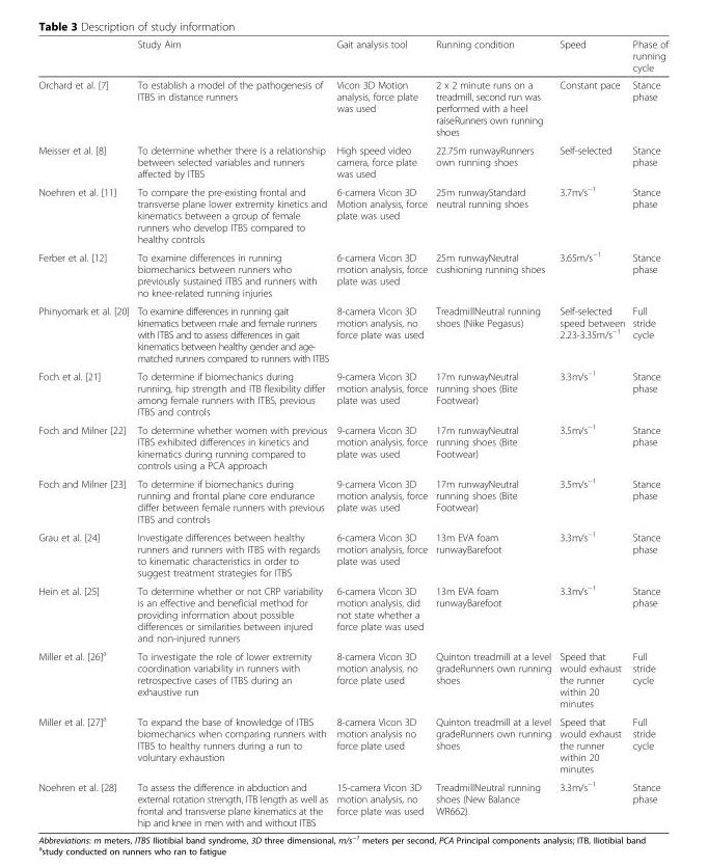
<table><thead><tr><td></td><td>Study Aim</td><td>Gait analysis tool</td><td>Running condition</td><td>Speed</td><td>Phase of running cycle</td></tr></thead><tbody><tr><td>Orchard et al. [7]</td><td>To establish a model of the pathogenesis of ITBS in distance runners</td><td>Vicon 3D Motion analysis, force plate was used</td><td>2 x 2 minute runs on a treadmill, second run was performed with a heel raiseRunners own running shoes</td><td>Constant pace</td><td>Stance phase</td></tr><tr><td>Meisser et al. [8]</td><td>To determine whether there is a relationship between selected variables and runners affected by ITBS</td><td>High speed video camera, force plate was used</td><td>22.75m runwayRunners own running shoes</td><td>Self-selected</td><td>Stance phase</td></tr><tr><td>Noehren et al. [11]</td><td>To compare the pre-existing frontal and transverse plane lower extremity kinetics and kinematics between a group of female runners who develop ITBS compared to healthy controls</td><td>6-camera Vicon 3D Motion analysis, force plate was used</td><td>25m runwayStandard neutral running shoes</td><td>3.7m/s<sup>−1</sup></td><td>Stance phase</td></tr><tr><td>Ferber et al. [12]</td><td>To examine differences in running biomechanics between runners who previously sustained ITBS and runners with no knee-related running injuries</td><td>6-camera Vicon 3D motion analysis, force plate was used</td><td>25m runwayNeutral cushioning running shoes</td><td>3.65m/s<sup>−1</sup></td><td>Stance phase</td></tr><tr><td>Phinyomark et al. [20]</td><td>To examine differences in running gait kinematics between male and female runners with ITBS and to assess differences in gait kinematics between healthy gender and age- matched runners compared to runners with ITBS</td><td>8-camera Vicon 3D motion analysis, no force plate was used</td><td>TreadmillNeutral running shoes (Nike Pegasus)</td><td>Self-selected speed between 2.23-3.35m/s<sup>−1</sup></td><td>Full stride cycle</td></tr><tr><td>Foch et al. [21]</td><td>To determine if biomechanics during running, hip strength and ITB flexibility differ among female runners with ITBS, previous ITBS and controls</td><td>9-camera Vicon 3D motion analysis, force plate was used</td><td>17m runwayNeutral running shoes (Bite Footwear)</td><td>3.3m/s<sup>−1</sup></td><td>Stance phase</td></tr><tr><td>Foch and Milner [22]</td><td>To determine whether women with previous ITBS exhibited differences in kinetics and kinematics during running compared to controls using a PCA approach</td><td>9-camera Vicon 3D motion analysis, force plate was used</td><td>17m runwayNeutral running shoes (Bite Footwear)</td><td>3.5m/s<sup>−1</sup></td><td>Stance phase</td></tr><tr><td>Foch and Milner [23]</td><td>To determine if biomechanics during running and frontal plane core endurance differ between female runners with previous ITBS and controls</td><td>9-camera Vicon 3D motion analysis, force plate was used</td><td>17m runwayNeutral running shoes (Bite Footwear)</td><td>3.5m/s<sup>−1</sup></td><td>Stance phase</td></tr><tr><td>Grau et al. [24]</td><td>Investigate differences between healthy runners and runners with ITBS with regards to kinematic characteristics in order to suggest treatment strategies for ITBS</td><td>6-camera Vicon 3D motion analysis, force plate was used</td><td>13m EVA foam runwayBarefoot</td><td>3.3m/s<sup>−1</sup></td><td>Stance phase</td></tr><tr><td>Hein et al. [25]</td><td>To determine whether or not CRP variability is an effective and beneficial method for providing information about possible differences or similarities between injured and non-injured runners</td><td>6-camera Vicon 3D motion analysis, did not state whether a force plate was used</td><td>13m EVA foam runwayBarefoot</td><td>3.3m/s<sup>−1</sup></td><td>Stance phase</td></tr><tr><td>Miller et al. [26]<sup>a</sup></td><td>To investigate the role of lower extremity coordination variability in runners with retrospective cases of ITBS during an exhaustive run</td><td>8-camera Vicon 3D motion analysis, no force plate used</td><td>Quinton treadmill at a level gradeRunners own running shoes</td><td>Speed that would exhaust the runner within 20 minutes</td><td>Full stride cycle</td></tr><tr><td>Miller et al. [27]<sup>a</sup></td><td>To expand the base of knowledge of ITBS biomechanics when comparing runners with ITBS to healthy runners during a run to voluntary exhaustion</td><td>8-camera Vicon 3D motion analysis no force plate used</td><td>Quinton treadmill at a level gradeRunners own running shoes</td><td>Speed that would exhaust the runner within 20 minutes</td><td>Full stride cycle</td></tr><tr><td>Noehren et al. [28]</td><td>To assess the difference in abduction and external rotation strength, ITB length as well as frontal and transverse plane kinematics at the hip and knee in men with and without ITBS</td><td>15-camera Vicon 3D motion analysis, no force plate was used</td><td>TreadmillNeutral running shoes (New Balance WR662)</td><td>3.3m/s<sup>−1</sup></td><td>Stance phase</td></tr></tbody></table>